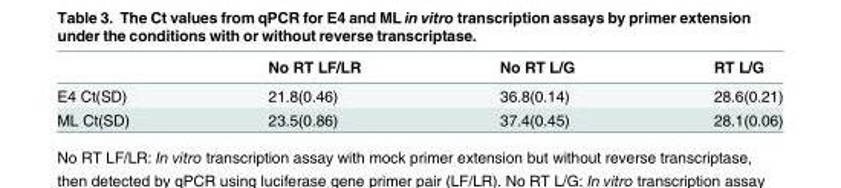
<table><thead><tr><td></td><td>No RT LF/LR</td><td>No RT L/G</td><td>RT L/G</td></tr></thead><tbody><tr><td>E4 Ct(SD)</td><td>21.8(0.46)</td><td>36.8(0.14)</td><td>28.6(0.21)</td></tr><tr><td>ML Ct(SD)</td><td>23.5(0.86)</td><td>37.4(0.45)</td><td>28.1(0.06)</td></tr></tbody></table>